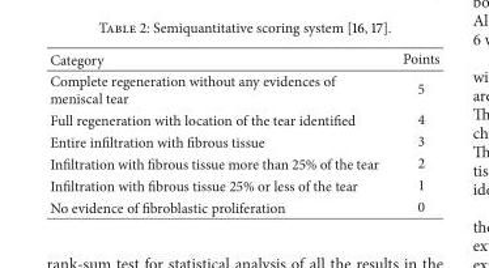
<table><thead><tr><td>Category</td><td>Points</td></tr></thead><tbody><tr><td>Complete regeneration without any evidences of meniscal tear</td><td>5</td></tr><tr><td>Full regeneration with location of the tear identified</td><td>4</td></tr><tr><td>Entire infiltration with fibrous tissue</td><td>3</td></tr><tr><td>Infiltration with fibrous tissue more than 25% of the tear</td><td>2</td></tr><tr><td>Infiltration with fibrous tissue 25% or less of the tear</td><td>1</td></tr><tr><td>No evidence of fibroblastic proliferation</td><td>0</td></tr></tbody></table>